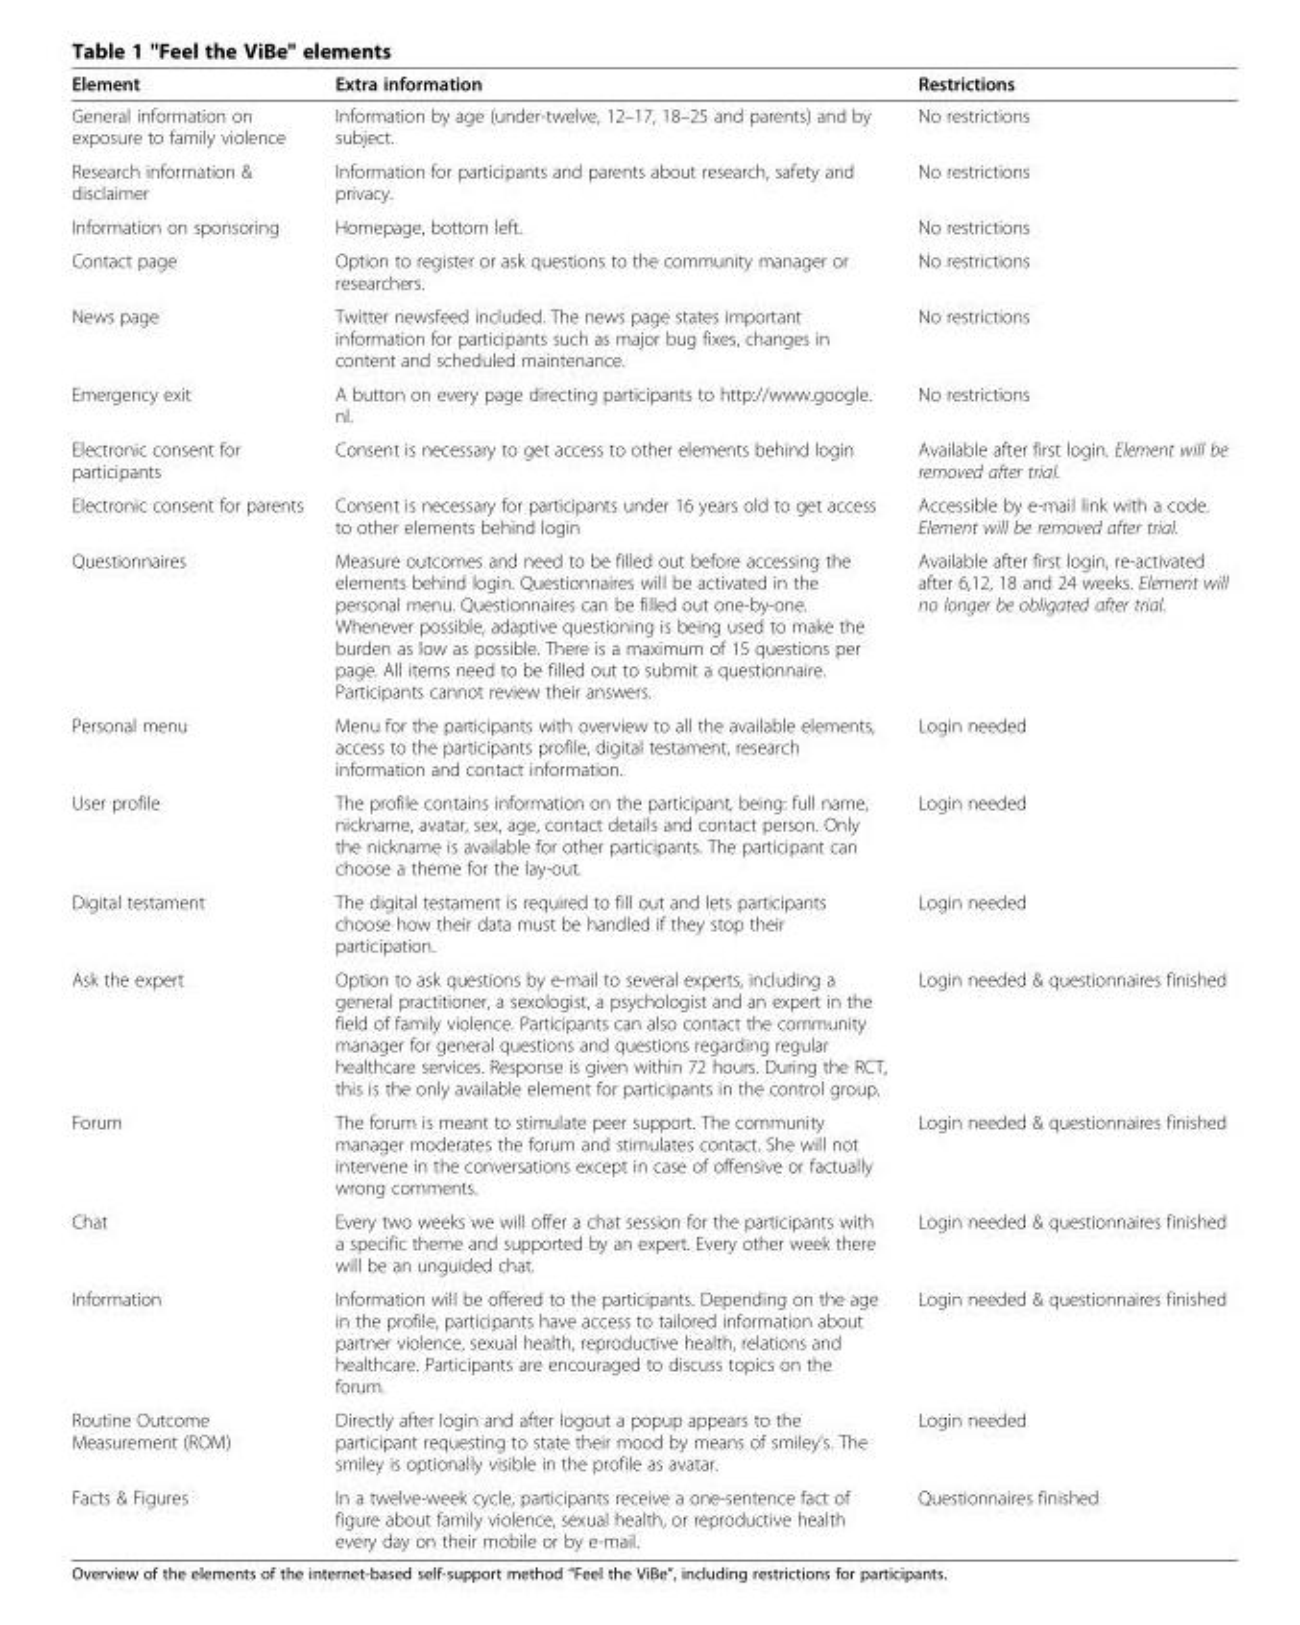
<table><thead><tr><td>Element</td><td>Extra information</td><td>Restrictions</td></tr></thead><tbody><tr><td>General information on exposure to family violence</td><td>Information by age (under-twelve, 12–17, 18–25 and parents) and by subject.</td><td>No restrictions</td></tr><tr><td>Research information &amp; disclaimer</td><td>Information for participants and parents about research, safety and privacy.</td><td>No restrictions</td></tr><tr><td>Information on sponsoring</td><td>Homepage, bottom left.</td><td>No restrictions</td></tr><tr><td>Contact page</td><td>Option to register or ask questions to the community manager or researchers.</td><td>No restrictions</td></tr><tr><td>News page</td><td>Twitter newsfeed included. The news page states important information for participants such as major bug fixes, changes in content and scheduled maintenance.</td><td>No restrictions</td></tr><tr><td>Emergency exit</td><td>A button on every page directing participants to http://www.google. nl.</td><td>No restrictions</td></tr><tr><td>Electronic consent for participants</td><td>Consent is necessary to get access to other elements behind login</td><td>Available after first login. Element will be removed after trial.</td></tr><tr><td>Electronic consent for parents</td><td>Consent is necessary for participants under 16 years old to get access to other elements behind login</td><td>Accessible by e-mail link with a code. Element will be removed after trial.</td></tr><tr><td>Questionnaires</td><td>Measure outcomes and need to be filled out before accessing the elements behind login. Questionnaires will be activated in the personal menu. Questionnaires can be filled out one-by-one. Whenever possible, adaptive questioning is being used to make the burden as low as possible. There is a maximum of 15 questions per page. All items need to be filled out to submit a questionnaire. Participants cannot review their answers.</td><td>Available after first login, re-activated after 6,12, 18 and 24 weeks. Element will no longer be obligated after trial.</td></tr><tr><td>Personal menu</td><td>Menu for the participants with overview to all the available elements, access to the participants profile, digital testament, research information and contact information.</td><td>Login needed</td></tr><tr><td>User profile</td><td>The profile contains information on the participant, being: full name, nickname, avatar, sex, age, contact details and contact person. Only the nickname is available for other participants. The participant can choose a theme for the lay-out.</td><td>Login needed</td></tr><tr><td>Digital testament</td><td>The digital testament is required to fill out and lets participants choose how their data must be handled if they stop their participation.</td><td>Login needed</td></tr><tr><td>Ask the expert</td><td>Option to ask questions by e-mail to several experts, including a general practitioner, a sexologist, a psychologist and an expert in the field of family violence. Participants can also contact the community manager for general questions and questions regarding regular healthcare services. Response is given within 72 hours. During the RCT, this is the only available element for participants in the control group.</td><td>Login needed &amp; questionnaires finished</td></tr><tr><td>Forum</td><td>The forum is meant to stimulate peer support. The community manager moderates the forum and stimulates contact. She will not intervene in the conversations except in case of offensive or factually wrong comments.</td><td>Login needed &amp; questionnaires finished</td></tr><tr><td>Chat</td><td>Every two weeks we will offer a chat session for the participants with a specific theme and supported by an expert. Every other week there will be an unguided chat.</td><td>Login needed &amp; questionnaires finished</td></tr><tr><td>Information</td><td>Information will be offered to the participants. Depending on the age in the profile, participants have access to tailored information about partner violence, sexual health, reproductive health, relations and healthcare. Participants are encouraged to discuss topics on the forum.</td><td>Login needed &amp; questionnaires finished</td></tr><tr><td>Routine Outcome Measurement (ROM)</td><td>Directly after login and after logout a popup appears to the participant requesting to state their mood by means of smiley’s. The smiley is optionally visible in the profile as avatar.</td><td>Login needed</td></tr><tr><td>Facts &amp; Figures</td><td>In a twelve-week cycle, participants receive a one-sentence fact of figure about family violence, sexual health, or reproductive health every day on their mobile or by e-mail.</td><td>Questionnaires finished</td></tr></tbody></table>